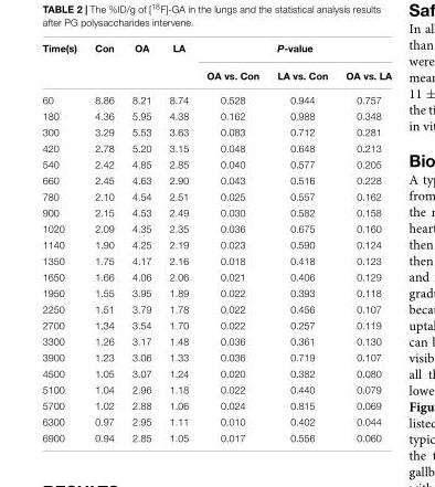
<table><thead><tr><td rowspan="2">Time(s)</td><td rowspan="2">Con</td><td rowspan="2">OA</td><td rowspan="2">LA</td><td colspan="3">P-value</td></tr><tr><td>OA vs. Con</td><td>LA vs. Con</td><td>OA vs. LA</td></tr></thead><tbody><tr><td>60</td><td>8.86</td><td>8.21</td><td>8.74</td><td>0.528</td><td>0.944</td><td>0.757</td></tr><tr><td>180</td><td>4.36</td><td>5.95</td><td>4.38</td><td>0.162</td><td>0.988</td><td>0.348</td></tr><tr><td>300</td><td>3.29</td><td>5.53</td><td>3.63</td><td>0.083</td><td>0.712</td><td>0.281</td></tr><tr><td>420</td><td>2.78</td><td>5.20</td><td>3.15</td><td>0.048</td><td>0.648</td><td>0.213</td></tr><tr><td>540</td><td>2.42</td><td>4.85</td><td>2.85</td><td>0.040</td><td>0.577</td><td>0.205</td></tr><tr><td>660</td><td>2.45</td><td>4.63</td><td>2.90</td><td>0.043</td><td>0.516</td><td>0.228</td></tr><tr><td>780</td><td>2.10</td><td>4.54</td><td>2.51</td><td>0.025</td><td>0.557</td><td>0.162</td></tr><tr><td>900</td><td>2.15</td><td>4.53</td><td>2.49</td><td>0.030</td><td>0.582</td><td>0.158</td></tr><tr><td>1020</td><td>2.09</td><td>4.35</td><td>2.35</td><td>0.036</td><td>0.675</td><td>0.160</td></tr><tr><td>1140</td><td>1.90</td><td>4.25</td><td>2.19</td><td>0.023</td><td>0.590</td><td>0.124</td></tr><tr><td>1350</td><td>1.75</td><td>4.17</td><td>2.16</td><td>0.018</td><td>0.418</td><td>0.123</td></tr><tr><td>1650</td><td>1.66</td><td>4.06</td><td>2.06</td><td>0.021</td><td>0.406</td><td>0.129</td></tr><tr><td>1950</td><td>1.55</td><td>3.95</td><td>1.89</td><td>0.022</td><td>0.393</td><td>0.118</td></tr><tr><td>2250</td><td>1.51</td><td>3.79</td><td>1.78</td><td>0.022</td><td>0.456</td><td>0.107</td></tr><tr><td>2700</td><td>1.34</td><td>3.54</td><td>1.70</td><td>0.022</td><td>0.257</td><td>0.119</td></tr><tr><td>3300</td><td>1.26</td><td>3.17</td><td>1.48</td><td>0.036</td><td>0.361</td><td>0.130</td></tr><tr><td>3900</td><td>1.23</td><td>3.06</td><td>1.33</td><td>0.036</td><td>0.719</td><td>0.107</td></tr><tr><td>4500</td><td>1.05</td><td>3.07</td><td>1.24</td><td>0.020</td><td>0.382</td><td>0.080</td></tr><tr><td>5100</td><td>1.04</td><td>2.96</td><td>1.18</td><td>0.022</td><td>0.440</td><td>0.079</td></tr><tr><td>5700</td><td>1.02</td><td>2.88</td><td>1.06</td><td>0.024</td><td>0.815</td><td>0.069</td></tr><tr><td>6300</td><td>0.97</td><td>2.95</td><td>1.11</td><td>0.010</td><td>0.402</td><td>0.044</td></tr><tr><td>6900</td><td>0.94</td><td>2.85</td><td>1.05</td><td>0.017</td><td>0.556</td><td>0.060</td></tr></tbody></table>